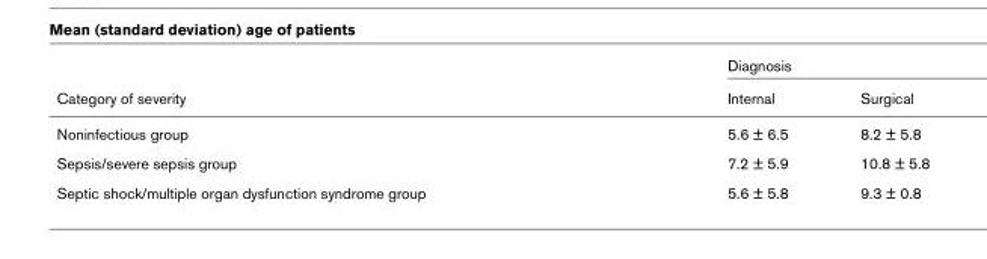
<table><thead><tr><td rowspan="2">Category of severity</td><td colspan="2">Diagnosis</td></tr><tr><td>Internal</td><td>Surgical</td></tr></thead><tbody><tr><td>Noninfectious group</td><td>5.6 ± 6.5</td><td>8.2 ± 5.8</td></tr><tr><td>Sepsis/severe sepsis group</td><td>7.2 ± 5.9</td><td>10.8 ± 5.8</td></tr><tr><td>Septic shock/multiple organ dysfunction syndrome group</td><td>5.6 ± 5.8</td><td>9.3 ± 0.8</td></tr></tbody></table>